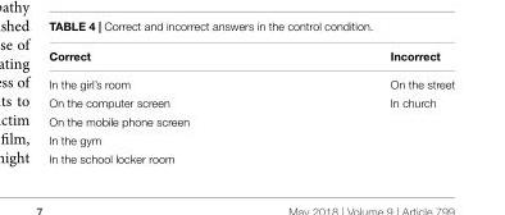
<table><thead><tr><td>Correct</td><td>Incorrect</td></tr></thead><tbody><tr><td>In the girl’s room</td><td>On the street</td></tr><tr><td>On the computer screen</td><td>In church</td></tr><tr><td colspan="2">On the mobile phone screen</td></tr><tr><td colspan="2">In the gym</td></tr><tr><td>In the school locker room</td><td></td></tr></tbody></table>